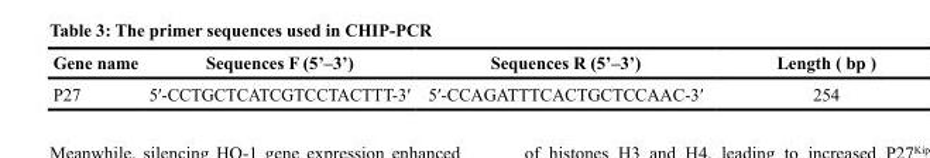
<table><thead><tr><td>Gene name</td><td>Sequences F (5’–3’)</td><td>Sequences R (5’–3’)</td><td>Length ( bp )</td></tr></thead><tbody><tr><td>P27</td><td>5′-CCTGCTCATCGTCCTACTTT-3′</td><td>5′-CCAGATTTCACTGCTCCAAC-3′</td><td>254</td></tr></tbody></table>